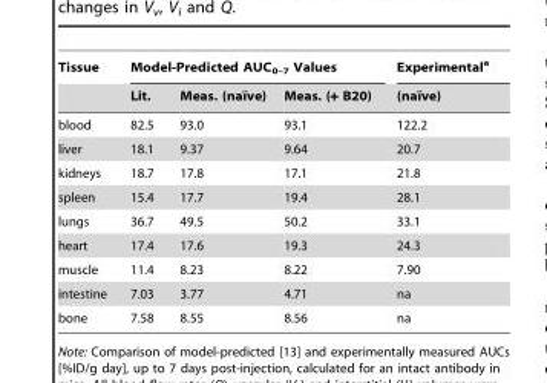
<table><thead><tr><td rowspan="2">Tissue</td><td colspan="3">Model-Predicted AUC<sub>0–7</sub> Values</td><td rowspan="2">Experimentala (naı¨ve)</td></tr><tr><td>Lit.</td><td>Meas. (naı¨ve)</td><td>Meas. (+ B20)</td></tr></thead><tbody><tr><td>blood</td><td>82.5</td><td>93.0</td><td>93.1</td><td>122.2</td></tr><tr><td>liver</td><td>18.1</td><td>9.37</td><td>9.64</td><td>20.7</td></tr><tr><td>kidneys</td><td>18.7</td><td>17.8</td><td>17.1</td><td>21.8</td></tr><tr><td>spleen</td><td>15.4</td><td>17.7</td><td>19.4</td><td>28.1</td></tr><tr><td>lungs</td><td>36.7</td><td>49.5</td><td>50.2</td><td>33.1</td></tr><tr><td>heart</td><td>17.4</td><td>17.6</td><td>19.3</td><td>24.3</td></tr><tr><td>muscle</td><td>11.4</td><td>8.23</td><td>8.22</td><td>7.90</td></tr><tr><td>intestine</td><td>7.03</td><td>3.77</td><td>4.71</td><td>na</td></tr><tr><td>bone</td><td>7.58</td><td>8.55</td><td>8.56</td><td>na</td></tr></tbody></table>